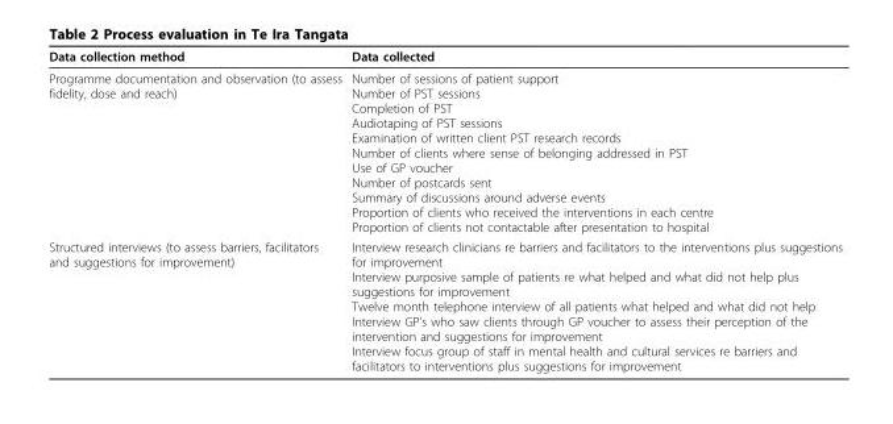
<table><thead><tr><td>Data collection method</td><td>Data collected</td></tr></thead><tbody><tr><td>Programme documentation and observation (to assess fidelity, dose and reach)</td><td>Number of sessions of patient support Number of PST sessions Completion of PST Audiotaping of PST sessions Examination of written client PST research records Number of clients where sense of belonging addressed in PST Use of GP voucher Number of postcards sent Summary of discussions around adverse events Proportion of clients who received the interventions in each centre Proportion of clients not contactable after presentation to hospital</td></tr><tr><td>Structured interviews (to assess barriers, facilitators and suggestions for improvement)</td><td>Interview research clinicians re barriers and facilitators to the interventions plus suggestions for improvement Interview purposive sample of patients re what helped and what did not help plus suggestions for improvement Twelve month telephone interview of all patients what helped and what did not help Interview GP’s who saw clients through GP voucher to assess their perception of the intervention and suggestions for improvement Interview focus group of staff in mental health and cultural services re barriers and facilitators to interventions plus suggestions for improvement</td></tr></tbody></table>